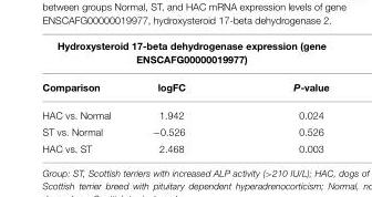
<table><thead><tr><td colspan="3">Hydroxysteroid 17-beta dehydrogenase expression (gene ENSCAFG00000019977)</td></tr><tr><td>Comparison</td><td>logFC</td><td>P-value</td></tr></thead><tbody><tr><td>HAC vs. Normal</td><td>1.942</td><td>0.024</td></tr><tr><td>ST vs. Normal</td><td>−0.526</td><td>0.526</td></tr><tr><td>HAC vs. ST</td><td>2.468</td><td>0.003</td></tr></tbody></table>